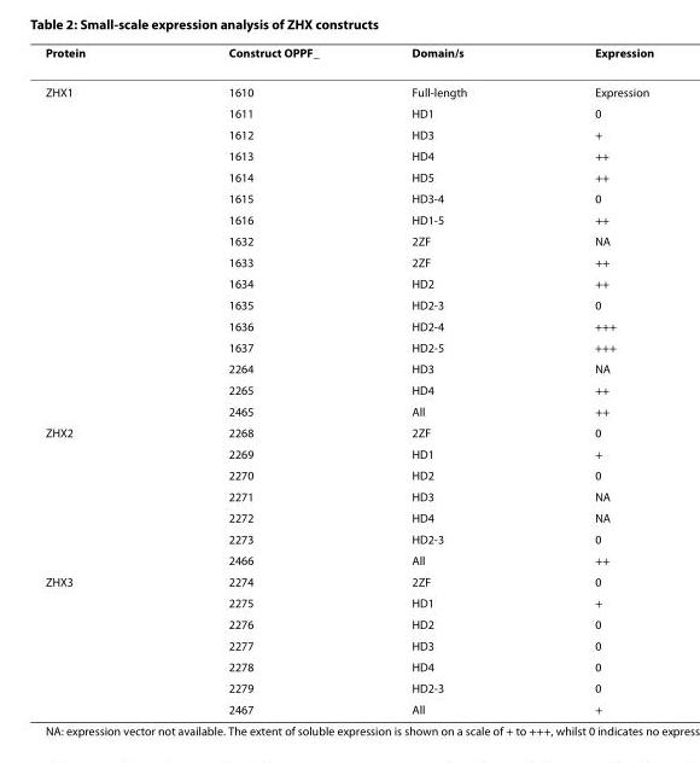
<table><thead><tr><td>Protein</td><td>Construct OPPF_</td><td>Domain/s</td><td>Expression</td></tr></thead><tbody><tr><td rowspan="16">ZHX1</td><td>1610</td><td>Full-length</td><td>Expression</td></tr><tr><td>1611</td><td>HD1</td><td>0</td></tr><tr><td>1612</td><td>HD3</td><td>+</td></tr><tr><td>1613</td><td>HD4</td><td>++</td></tr><tr><td>1614</td><td>HD5</td><td>++</td></tr><tr><td>1615</td><td>HD3-4</td><td>0</td></tr><tr><td>1616</td><td>HD1-5</td><td>++</td></tr><tr><td>1632</td><td>2ZF</td><td>NA</td></tr><tr><td>1633</td><td>2ZF</td><td>++</td></tr><tr><td>1634</td><td>HD2</td><td>++</td></tr><tr><td>1635</td><td>HD2-3</td><td>0</td></tr><tr><td>1636</td><td>HD2-4</td><td>+++</td></tr><tr><td>1637</td><td>HD2-5</td><td>+++</td></tr><tr><td>2264</td><td>HD3</td><td>NA</td></tr><tr><td>2265</td><td>HD4</td><td>++</td></tr><tr><td>2465</td><td>All</td><td>++</td></tr><tr><td rowspan="7">ZHX2</td><td>2268</td><td>2ZF</td><td>0</td></tr><tr><td>2269</td><td>HD1</td><td>+</td></tr><tr><td>2270</td><td>HD2</td><td>0</td></tr><tr><td>2271</td><td>HD3</td><td>NA</td></tr><tr><td>2272</td><td>HD4</td><td>NA</td></tr><tr><td>2273</td><td>HD2-3</td><td>0</td></tr><tr><td>2466</td><td>All</td><td>++</td></tr><tr><td rowspan="7">ZHX3</td><td>2274</td><td>2ZF</td><td>0</td></tr><tr><td>2275</td><td>HD1</td><td>+</td></tr><tr><td>2276</td><td>HD2</td><td>0</td></tr><tr><td>2277</td><td>HD3</td><td>0</td></tr><tr><td>2278</td><td>HD4</td><td>0</td></tr><tr><td>2279</td><td>HD2-3</td><td>0</td></tr><tr><td>2467</td><td>All</td><td>+</td></tr></tbody></table>